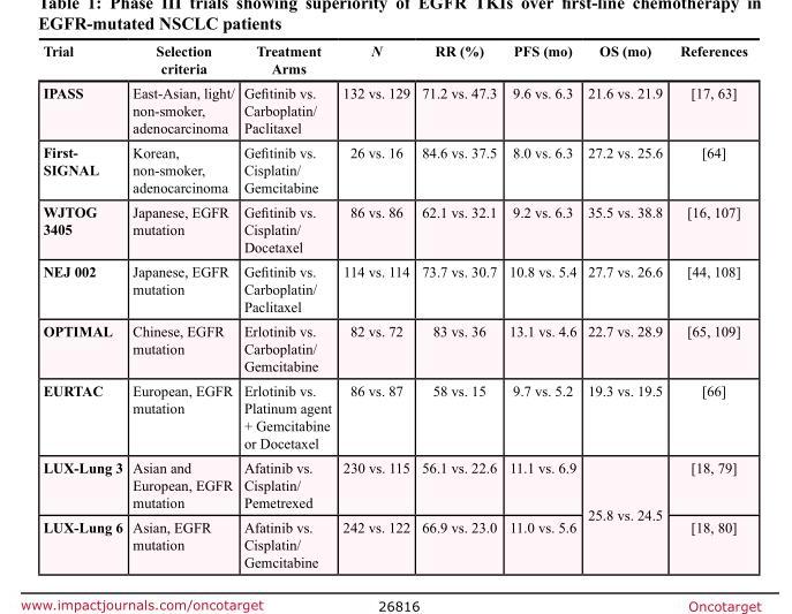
<table><thead><tr><td>Trial</td><td>Selection criteria</td><td>Treatment Arms</td><td>N</td><td>RR (%)</td><td>PFS (mo)</td><td>OS (mo)</td><td>References</td></tr></thead><tbody><tr><td>IPASS</td><td>East-Asian, light/ non-smoker, adenocarcinoma</td><td>Gefitinib vs. Carboplatin/ Paclitaxel</td><td>132 vs. 129</td><td>71.2 vs. 47.3</td><td>9.6 vs. 6.3</td><td>21.6 vs. 21.9</td><td>[17, 63]</td></tr><tr><td>First- SIGNAL</td><td>Korean, non-smoker, adenocarcinoma</td><td>Gefitinib vs. Cisplatin/ Gemcitabine</td><td>26 vs. 16</td><td>84.6 vs. 37.5</td><td>8.0 vs. 6.3</td><td>27.2 vs. 25.6</td><td>[64]</td></tr><tr><td>WJTOG 3405</td><td>Japanese, EGFR mutation</td><td>Gefitinib vs. Cisplatin/ Docetaxel</td><td>86 vs. 86</td><td>62.1 vs. 32.1</td><td>9.2 vs. 6.3</td><td>35.5 vs. 38.8</td><td>[16, 107]</td></tr><tr><td>NEJ 002</td><td>Japanese, EGFR mutation</td><td>Gefitinib vs. Carboplatin/ Paclitaxel</td><td>114 vs. 114</td><td>73.7 vs. 30.7</td><td>10.8 vs. 5.4</td><td>27.7 vs. 26.6</td><td>[44, 108]</td></tr><tr><td>OPTIMAL</td><td>Chinese, EGFR mutation</td><td>Erlotinib vs. Carboplatin/ Gemcitabine</td><td>82 vs. 72</td><td>83 vs. 36</td><td>13.1 vs. 4.6</td><td>22.7 vs. 28.9</td><td>[65, 109]</td></tr><tr><td>EURTAC</td><td>European, EGFR mutation</td><td>Erlotinib vs. Platinum agent + Gemcitabine or Docetaxel</td><td>86 vs. 87</td><td>58 vs. 15</td><td>9.7 vs. 5.2</td><td>19.3 vs. 19.5</td><td>[66]</td></tr><tr><td>LUX-Lung 3</td><td>Asian and European, EGFR mutation</td><td>Afatinib vs. Cisplatin/ Pemetrexed</td><td>230 vs. 115</td><td>56.1 vs. 22.6</td><td>11.1 vs. 6.9</td><td rowspan="2">25.8 vs. 24.5</td><td>[18, 79]</td></tr><tr><td>LUX-Lung 6</td><td>Asian, EGFR mutation</td><td>Afatinib vs. Cisplatin/ Gemcitabine</td><td>242 vs. 122</td><td>66.9 vs. 23.0</td><td>11.0 vs. 5.6</td><td>[18, 80]</td></tr></tbody></table>